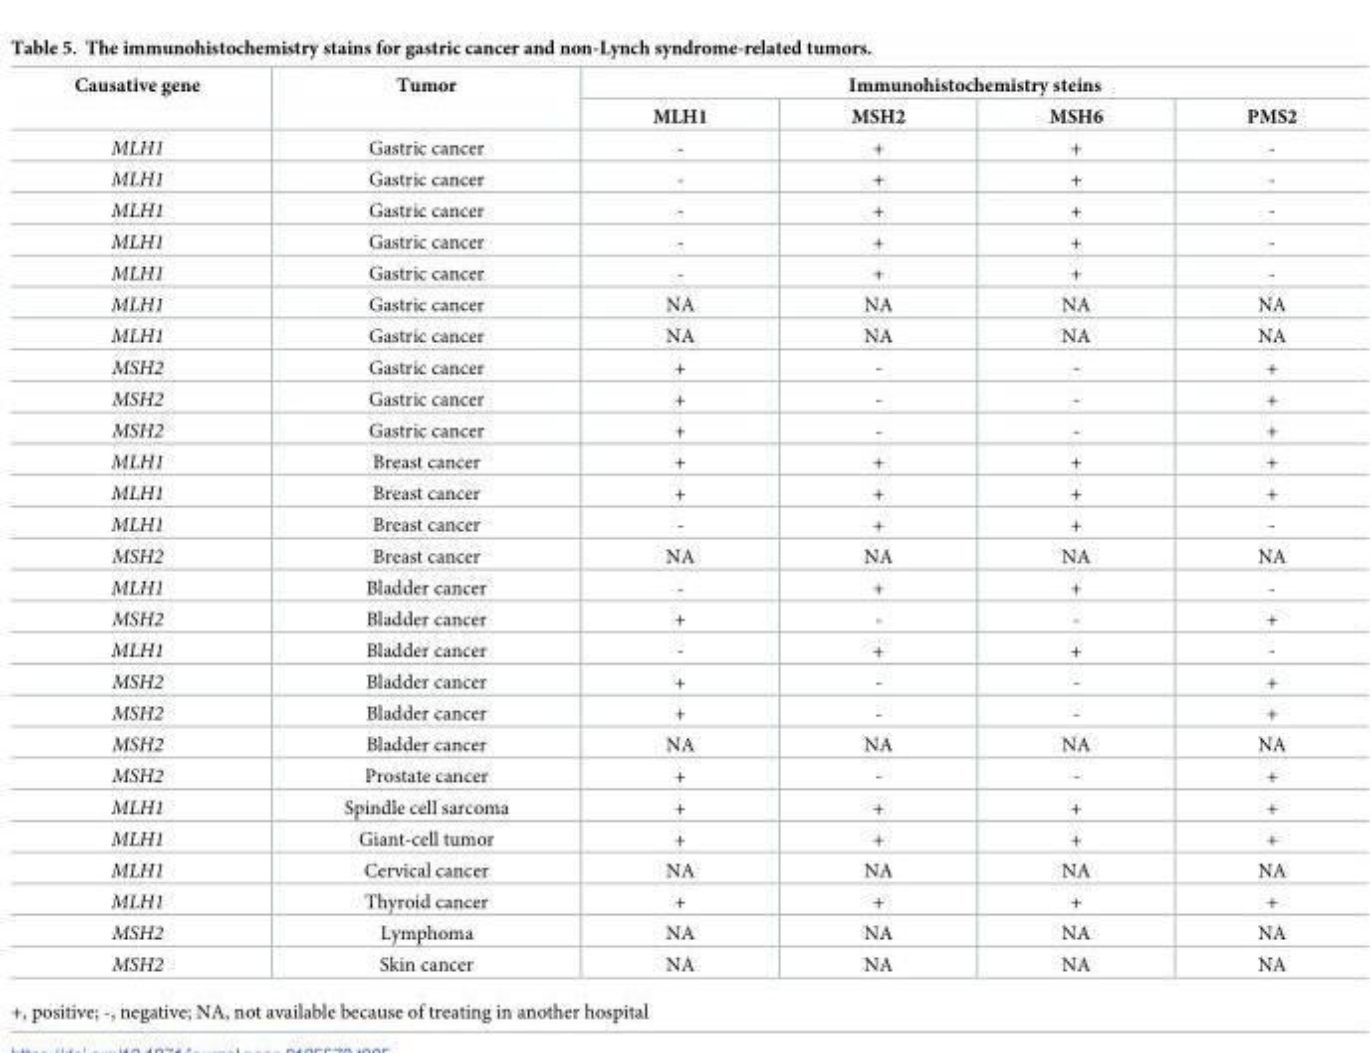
<table><thead><tr><td rowspan="2">Causative gene</td><td rowspan="2">Tumor</td><td colspan="4">Immunohistochemistry steins</td></tr><tr><td>MLH1</td><td>MSH2</td><td>MSH6</td><td>PMS2</td></tr></thead><tbody><tr><td>MLH1</td><td>Gastric cancer</td><td>-</td><td>+</td><td>+</td><td>-</td></tr><tr><td>MLH1</td><td>Gastric cancer</td><td>-</td><td>+</td><td>+</td><td>-</td></tr><tr><td>MLH1</td><td>Gastric cancer</td><td>-</td><td>+</td><td>+</td><td>-</td></tr><tr><td>MLH1</td><td>Gastric cancer</td><td>-</td><td>+</td><td>+</td><td>-</td></tr><tr><td>MLH1</td><td>Gastric cancer</td><td>-</td><td>+</td><td>+</td><td>-</td></tr><tr><td>MLH1</td><td>Gastric cancer</td><td>NA</td><td>NA</td><td>NA</td><td>NA</td></tr><tr><td>MLH1</td><td>Gastric cancer</td><td>NA</td><td>NA</td><td>NA</td><td>NA</td></tr><tr><td>MSH2</td><td>Gastric cancer</td><td>+</td><td>-</td><td>-</td><td>+</td></tr><tr><td>MSH2</td><td>Gastric cancer</td><td>+</td><td>-</td><td>-</td><td>+</td></tr><tr><td>MSH2</td><td>Gastric cancer</td><td>+</td><td>-</td><td>-</td><td>+</td></tr><tr><td>MLH1</td><td>Breast cancer</td><td>+</td><td>+</td><td>+</td><td>+</td></tr><tr><td>MLH1</td><td>Breast cancer</td><td>+</td><td>+</td><td>+</td><td>+</td></tr><tr><td>MLH1</td><td>Breast cancer</td><td>-</td><td>+</td><td>+</td><td>-</td></tr><tr><td>MSH2</td><td>Breast cancer</td><td>NA</td><td>NA</td><td>NA</td><td>NA</td></tr><tr><td>MLH1</td><td>Bladder cancer</td><td>-</td><td>+</td><td>+</td><td>-</td></tr><tr><td>MSH2</td><td>Bladder cancer</td><td>+</td><td>-</td><td>-</td><td>+</td></tr><tr><td>MLH1</td><td>Bladder cancer</td><td>-</td><td>+</td><td>+</td><td>-</td></tr><tr><td>MSH2</td><td>Bladder cancer</td><td>+</td><td>-</td><td>-</td><td>+</td></tr><tr><td>MSH2</td><td>Bladder cancer</td><td>+</td><td>-</td><td>-</td><td>+</td></tr><tr><td>MSH2</td><td>Bladder cancer</td><td>NA</td><td>NA</td><td>NA</td><td>NA</td></tr><tr><td>MSH2</td><td>Prostate cancer</td><td>+</td><td>-</td><td>-</td><td>+</td></tr><tr><td>MLH1</td><td>Spindle cell sarcoma</td><td>+</td><td>+</td><td>+</td><td>+</td></tr><tr><td>MLH1</td><td>Giant-cell tumor</td><td>+</td><td>+</td><td>+</td><td>+</td></tr><tr><td>MLH1</td><td>Cervical cancer</td><td>NA</td><td>NA</td><td>NA</td><td>NA</td></tr><tr><td>MLH1</td><td>Thyroid cancer</td><td>+</td><td>+</td><td>+</td><td>+</td></tr><tr><td>MSH2</td><td>Lymphoma</td><td>NA</td><td>NA</td><td>NA</td><td>NA</td></tr><tr><td>MSH2</td><td>Skin cancer</td><td>NA</td><td>NA</td><td>NA</td><td>NA</td></tr></tbody></table>